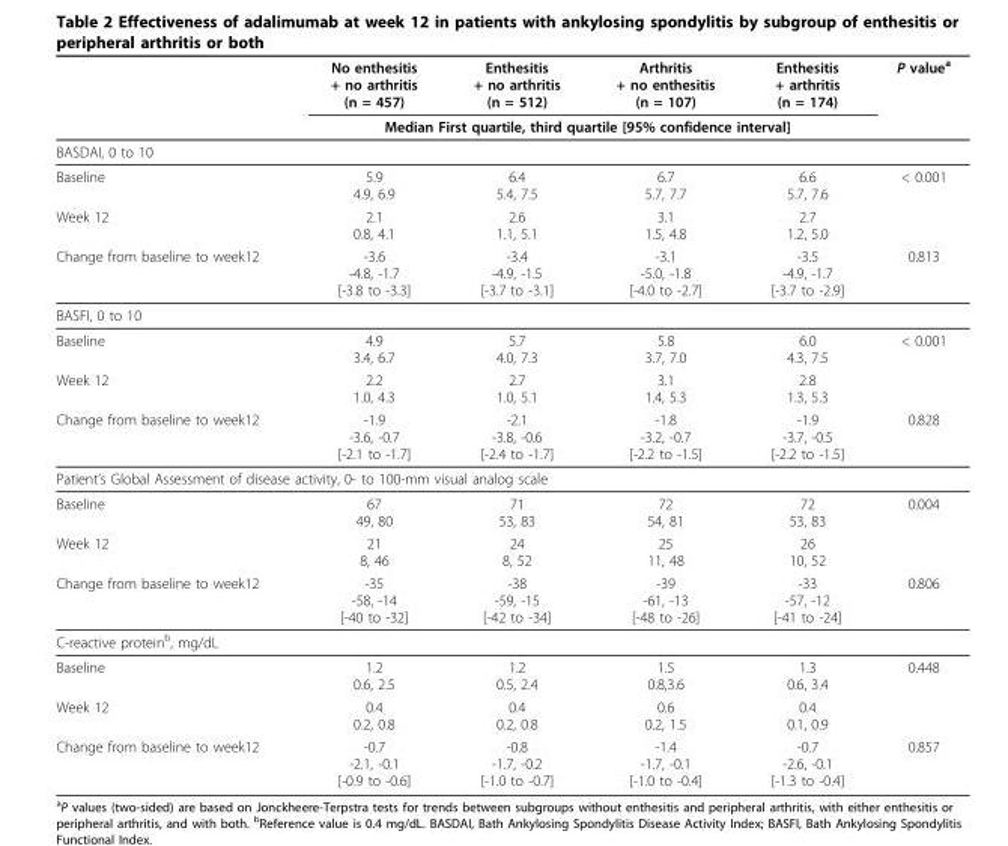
<table><thead><tr><td rowspan="2"></td><td>No enthesitis + no arthritis (n = 457)</td><td>Enthesitis + no arthritis (n = 512)</td><td>Arthritis + no enthesitis (n = 107)</td><td>Enthesitis + arthritis (n = 174)</td><td rowspan="2">P value<sup>a</sup></td></tr><tr><td colspan="4">Median First quartile, third quartile [95% confidence interval]</td></tr></thead><tbody><tr><td colspan="6">BASDAI, 0 to 10</td></tr><tr><td>Baseline</td><td>5.9 4.9, 6.9</td><td>6.4 5.4, 7.5</td><td>6.7 5.7, 7.7</td><td>6.6 5.7, 7.6</td><td>&lt; 0.001</td></tr><tr><td>Week 12</td><td>2.1 0.8, 4.1</td><td>2.6 1.1, 5.1</td><td>3.1 1.5, 4.8</td><td>2.7 1.2, 5.0</td><td></td></tr><tr><td>Change from baseline to week12</td><td>-3.6 -4.8, -1.7 [-3.8 to -3.3]</td><td>-3.4 -4.9, -1.5 [-3.7 to -3.1]</td><td>-3.1 -5.0, -1.8 [-4.0 to -2.7]</td><td>-3.5 -4.9, -1.7 [-3.7 to -2.9]</td><td>0.813</td></tr><tr><td colspan="6">BASFI, 0 to 10</td></tr><tr><td>Baseline</td><td>4.9 3.4, 6.7</td><td>5.7 4.0, 7.3</td><td>5.8 3.7, 7.0</td><td>6.0 4.3, 7.5</td><td>&lt; 0.001</td></tr><tr><td>Week 12</td><td>2.2 1.0, 4.3</td><td>2.7 1.0, 5.1</td><td>3.1 1.4, 5.3</td><td>2.8 1.3, 5.3</td><td></td></tr><tr><td>Change from baseline to week12</td><td>-1.9 -3.6, -0.7 [-2.1 to -1.7]</td><td>-2.1 -3.8, -0.6 [-2.4 to -1.7]</td><td>-1.8 -3.2, -0.7 [-2.2 to -1.5]</td><td>-1.9 -3.7, -0.5 [-2.2 to -1.5]</td><td>0.828</td></tr><tr><td colspan="6">Patient’s Global Assessment of disease activity, 0- to 100-mm visual analog scale</td></tr><tr><td>Baseline</td><td>67 49, 80</td><td>71 53, 83</td><td>72 54, 81</td><td>72 53, 83</td><td>0.004</td></tr><tr><td>Week 12</td><td>21 8, 46</td><td>24 8, 52</td><td>25 11, 48</td><td>26 10, 52</td><td></td></tr><tr><td>Change from baseline to week12</td><td>-35 -58, -14 [-40 to -32]</td><td>-38 -59, -15 [-42 to -34]</td><td>-39 -61, -13 [-48 to -26]</td><td>-33 -57, -12 [-41 to -24]</td><td>0.806</td></tr><tr><td colspan="6">C-reactive protein<sup>b</sup>, mg/dL</td></tr><tr><td>Baseline</td><td>1.2 0.6, 2.5</td><td>1.2 0.5, 2.4</td><td>1.5 0.8,3.6</td><td>1.3 0.6, 3.4</td><td>0.448</td></tr><tr><td>Week 12</td><td>0.4 0.2, 0.8</td><td>0.4 0.2, 0.8</td><td>0.6 0.2, 1.5</td><td>0.4 0.1, 0.9</td><td></td></tr><tr><td>Change from baseline to week12</td><td>-0.7 -2.1, -0.1 [-0.9 to -0.6]</td><td>-0.8 -1.7, -0.2 [-1.0 to -0.7]</td><td>-1.4 -1.7, -0.1 [-1.0 to -0.4]</td><td>-0.7 -2.6, -0.1 [-1.3 to -0.4]</td><td>0.857</td></tr></tbody></table>